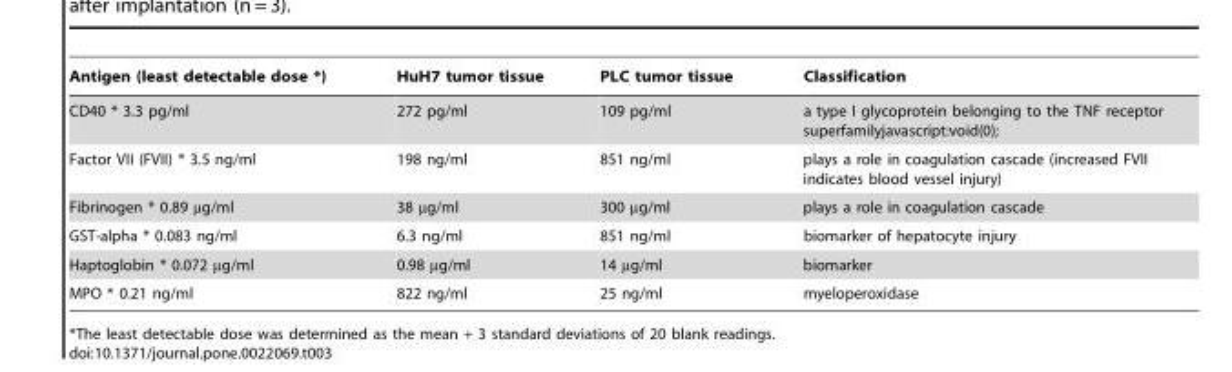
<table><thead><tr><td>Antigen (least detectable dose *)</td><td>HuH7 tumor tissue</td><td>PLC tumor tissue</td><td>Classification</td></tr></thead><tbody><tr><td>CD40 * 3.3 pg/ml</td><td>272 pg/ml</td><td>109 pg/ml</td><td>a type I glycoprotein belonging to the TNF receptor superfamilyjavascript:void(0);</td></tr><tr><td>Factor VII (FVII) * 3.5 ng/ml</td><td>198 ng/ml</td><td>851 ng/ml</td><td>plays a role in coagulation cascade (increased FVII indicates blood vessel injury)</td></tr><tr><td>Fibrinogen * 0.89 µg/ml</td><td>38 µg/ml</td><td>300 µg/ml</td><td>plays a role in coagulation cascade</td></tr><tr><td>GST-alpha * 0.083 ng/ml</td><td>6.3 ng/ml</td><td>851 ng/ml</td><td>biomarker of hepatocyte injury</td></tr><tr><td>Haptoglobin * 0.072 µg/ml</td><td>0.98 µg/ml</td><td>14 µg/ml</td><td>biomarker</td></tr><tr><td>MPO * 0.21 ng/ml</td><td>822 ng/ml</td><td>25 ng/ml</td><td>myeloperoxidase</td></tr></tbody></table>